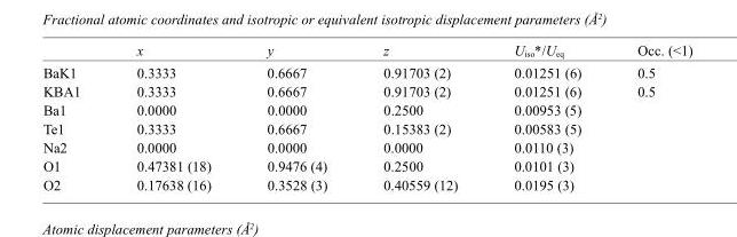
<table><thead><tr><td></td><td>x</td><td>y</td><td>z</td><td>U<sub>iso</sub>*/U<sub>eq</sub></td><td>Occ. (&lt;1)</td></tr></thead><tbody><tr><td>BaK1</td><td>0.3333</td><td>0.6667</td><td>0.91703 (2)</td><td>0.01251 (6)</td><td>0.5</td></tr><tr><td>KBA1</td><td>0.3333</td><td>0.6667</td><td>0.91703 (2)</td><td>0.01251 (6)</td><td>0.5</td></tr><tr><td>Ba1</td><td>0.0000</td><td>0.0000</td><td>0.2500</td><td>0.00953 (5)</td><td></td></tr><tr><td>Te1</td><td>0.3333</td><td>0.6667</td><td>0.15383 (2)</td><td>0.00583 (5)</td><td></td></tr><tr><td>Na2</td><td>0.0000</td><td>0.0000</td><td>0.0000</td><td>0.0110 (3)</td><td></td></tr><tr><td>O1</td><td>0.47381 (18)</td><td>0.9476 (4)</td><td>0.2500</td><td>0.0101 (3)</td><td></td></tr><tr><td>O2</td><td>0.17638 (16)</td><td>0.3528 (3)</td><td>0.40559 (12)</td><td>0.0195 (3)</td><td></td></tr></tbody></table>